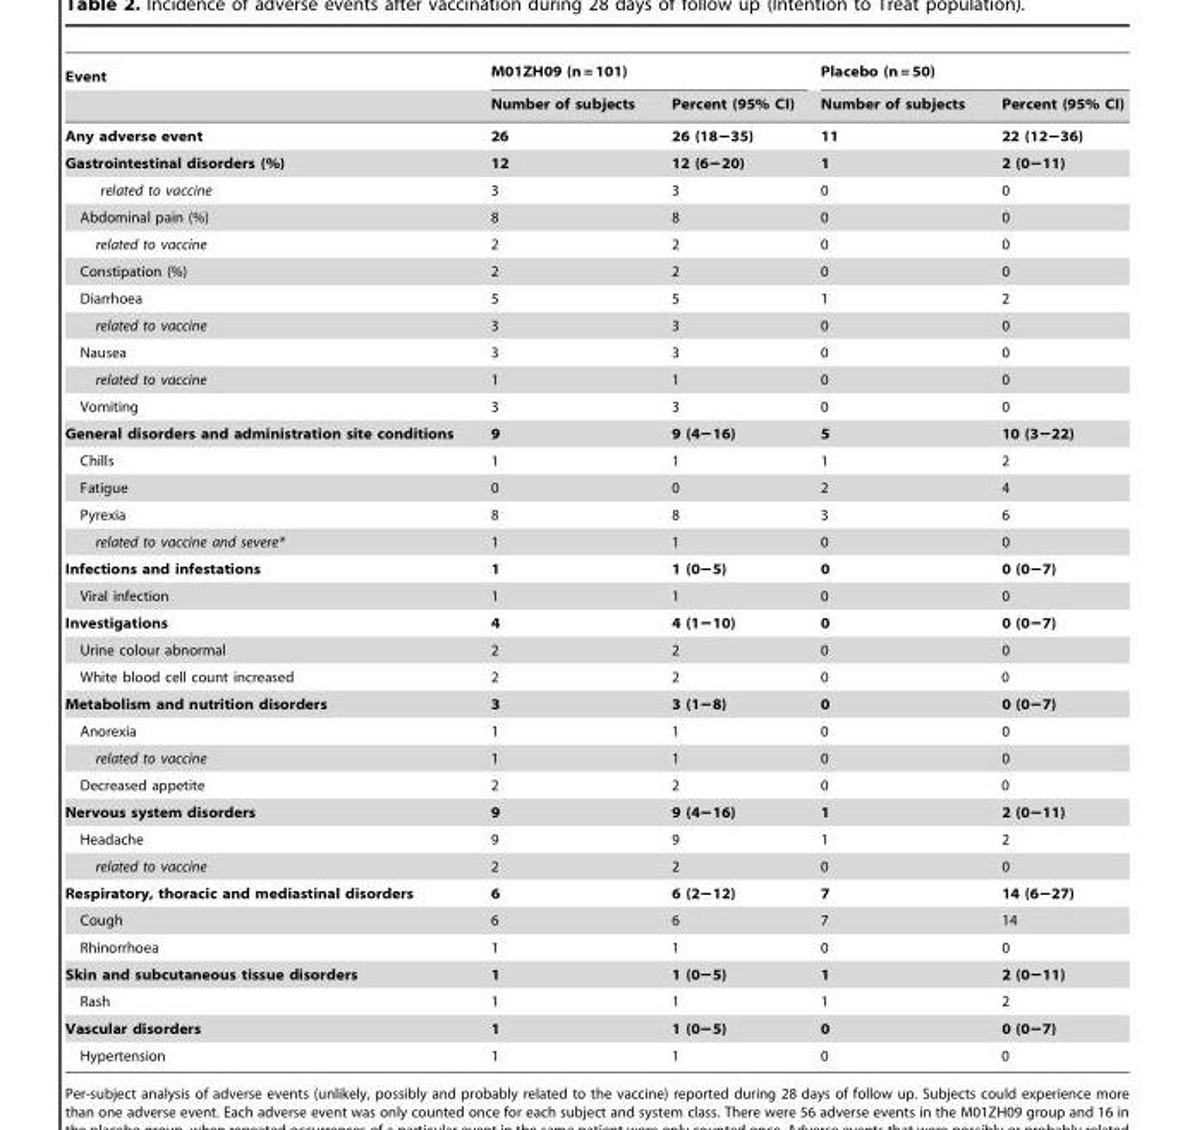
<table><thead><tr><td rowspan="2">Event</td><td colspan="2">M01ZH09 (n = 101)</td><td colspan="2">Placebo (n = 50)</td></tr><tr><td>Number of subjects</td><td>Percent (95% CI)</td><td>Number of subjects</td><td>Percent (95% CI)</td></tr></thead><tbody><tr><td>Any adverse event</td><td>26</td><td>26 (18−35)</td><td>11</td><td>22 (12−36)</td></tr><tr><td>Gastrointestinal disorders (%)</td><td>12</td><td>12 (6−20)</td><td>1</td><td>2 (0−11)</td></tr><tr><td>related to vaccine</td><td>3</td><td>3</td><td>0</td><td>0</td></tr><tr><td>Abdominal pain (%)</td><td>8</td><td>8</td><td>0</td><td>0</td></tr><tr><td>related to vaccine</td><td>2</td><td>2</td><td>0</td><td>0</td></tr><tr><td>Constipation (%)</td><td>2</td><td>2</td><td>0</td><td>0</td></tr><tr><td>Diarrhoea</td><td>5</td><td>5</td><td>1</td><td>2</td></tr><tr><td>related to vaccine</td><td>3</td><td>3</td><td>0</td><td>0</td></tr><tr><td>Nausea</td><td>3</td><td>3</td><td>0</td><td>0</td></tr><tr><td>related to vaccine</td><td>1</td><td>1</td><td>0</td><td>0</td></tr><tr><td>Vomiting</td><td>3</td><td>3</td><td>0</td><td>0</td></tr><tr><td>General disorders and administration site conditions</td><td>9</td><td>9 (4−16)</td><td>5</td><td>10 (3−22)</td></tr><tr><td>Chills</td><td>1</td><td>1</td><td>1</td><td>2</td></tr><tr><td>Fatigue</td><td>0</td><td>0</td><td>2</td><td>4</td></tr><tr><td>Pyrexia</td><td>8</td><td>8</td><td>3</td><td>6</td></tr><tr><td>related to vaccine and severe*</td><td>1</td><td>1</td><td>0</td><td>0</td></tr><tr><td>Infections and infestations</td><td>1</td><td>1 (0−5)</td><td>0</td><td>0 (0−7)</td></tr><tr><td>Viral infection</td><td>1</td><td>1</td><td>0</td><td>0</td></tr><tr><td>Investigations</td><td>4</td><td>4 (1−10)</td><td>0</td><td>0 (0−7)</td></tr><tr><td>Urine colour abnormal</td><td>2</td><td>2</td><td>0</td><td>0</td></tr><tr><td>White blood cell count increased</td><td>2</td><td>2</td><td>0</td><td>0</td></tr><tr><td>Metabolism and nutrition disorders</td><td>3</td><td>3 (1−8)</td><td>0</td><td>0 (0−7)</td></tr><tr><td>Anorexia</td><td>1</td><td>1</td><td>0</td><td>0</td></tr><tr><td>related to vaccine</td><td>1</td><td>1</td><td>0</td><td>0</td></tr><tr><td>Decreased appetite</td><td>2</td><td>2</td><td>0</td><td>0</td></tr><tr><td>Nervous system disorders</td><td>9</td><td>9 (4−16)</td><td>1</td><td>2 (0−11)</td></tr><tr><td>Headache</td><td>9</td><td>9</td><td>1</td><td>2</td></tr><tr><td>related to vaccine</td><td>2</td><td>2</td><td>0</td><td>0</td></tr><tr><td>Respiratory, thoracic and mediastinal disorders</td><td>6</td><td>6 (2−12)</td><td>7</td><td>14 (6−27)</td></tr><tr><td>Cough</td><td>6</td><td>6</td><td>7</td><td>14</td></tr><tr><td>Rhinorrhoea</td><td>1</td><td>1</td><td>0</td><td>0</td></tr><tr><td>Skin and subcutaneous tissue disorders</td><td>1</td><td>1 (0−5)</td><td>1</td><td>2 (0−11)</td></tr><tr><td>Rash</td><td>1</td><td>1</td><td>1</td><td>2</td></tr><tr><td>Vascular disorders</td><td>1</td><td>1 (0−5)</td><td>0</td><td>0 (0−7)</td></tr><tr><td>Hypertension</td><td>1</td><td>1</td><td>0</td><td>0</td></tr></tbody></table>